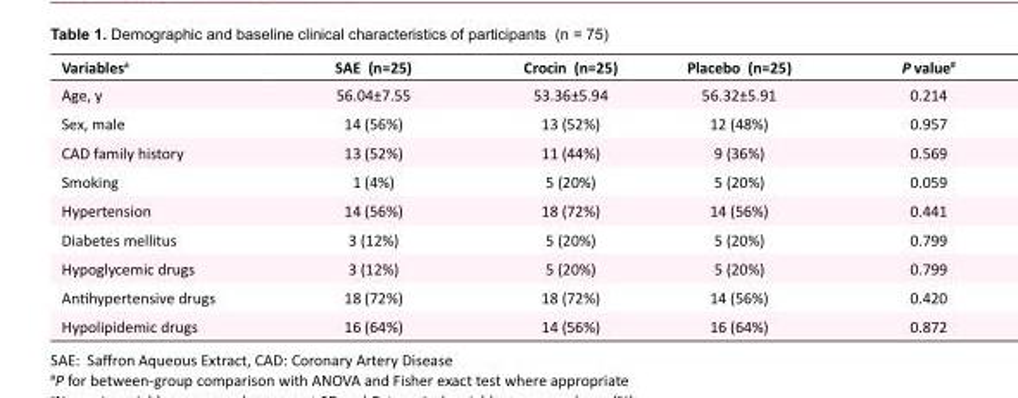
<table><tbody><tr><td>Variables<sup>a</sup></td><td>SAE (n=25)</td><td>Crocin (n=25)</td><td>Placebo (n=25)</td><td>P value<sup>#</sup></td></tr><tr><td>Age, y</td><td>56.04±7.55</td><td>53.36±5.94</td><td>56.32±5.91</td><td>0.214</td></tr><tr><td>Sex, male</td><td>14 (56%)</td><td>13 (52%)</td><td>12 (48%)</td><td>0.957</td></tr><tr><td>CAD family history</td><td>13 (52%)</td><td>11 (44%)</td><td>9 (36%)</td><td>0.569</td></tr><tr><td>Smoking</td><td>1 (4%)</td><td>5 (20%)</td><td>5 (20%)</td><td>0.059</td></tr><tr><td>Hypertension</td><td>14 (56%)</td><td>18 (72%)</td><td>14 (56%)</td><td>0.441</td></tr><tr><td>Diabetes mellitus</td><td>3 (12%)</td><td>5 (20%)</td><td>5 (20%)</td><td>0.799</td></tr><tr><td>Hypoglycemic drugs</td><td>3 (12%)</td><td>5 (20%)</td><td>5 (20%)</td><td>0.799</td></tr><tr><td>Antihypertensive drugs</td><td>18 (72%)</td><td>18 (72%)</td><td>14 (56%)</td><td>0.420</td></tr><tr><td>Hypolipidemic drugs</td><td>16 (64%)</td><td>14 (56%)</td><td>16 (64%)</td><td>0.872</td></tr></tbody></table>